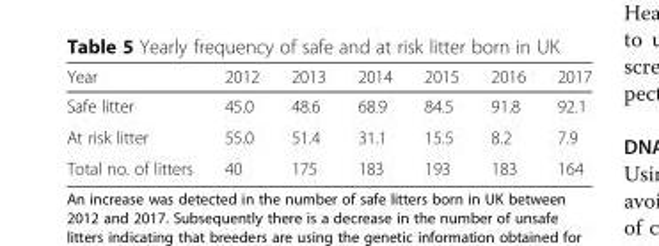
<table><thead><tr><td>Year</td><td>2012</td><td>2013</td><td>2014</td><td>2015</td><td>2016</td><td>2017</td></tr></thead><tbody><tr><td>Safe litter</td><td>45.0</td><td>48.6</td><td>68.9</td><td>84.5</td><td>91.8</td><td>92.1</td></tr><tr><td>At risk litter</td><td>55.0</td><td>51.4</td><td>31.1</td><td>15.5</td><td>8.2</td><td>7.9</td></tr><tr><td>Total no. of litters</td><td>40</td><td>175</td><td>183</td><td>193</td><td>183</td><td>164</td></tr></tbody></table>